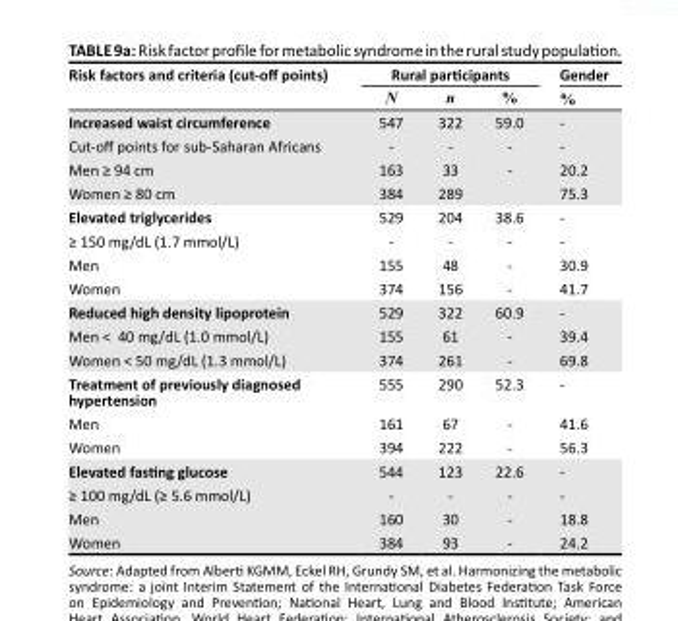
<table><thead><tr><td rowspan="2">Risk factors and criteria (cut-off points)</td><td colspan="3">Rural participants</td><td rowspan="2">Gender %</td></tr><tr><td>N</td><td>n</td><td>%</td></tr></thead><tbody><tr><td>Increased waist circumference</td><td>547</td><td>322</td><td>59.0</td><td>-</td></tr><tr><td>Cut-off points for sub-Saharan Africans</td><td>-</td><td>-</td><td>-</td><td>-</td></tr><tr><td>Men ≥ 94 cm</td><td>163</td><td>33</td><td>-</td><td>20.2</td></tr><tr><td>Women ≥ 80 cm</td><td>384</td><td>289</td><td></td><td>75.3</td></tr><tr><td>Elevated triglycerides</td><td>529</td><td>204</td><td>38.6</td><td>-</td></tr><tr><td>≥ 150 mg/dL (1.7 mmol/L)</td><td>-</td><td>-</td><td>-</td><td>-</td></tr><tr><td>Men</td><td>155</td><td>48</td><td>-</td><td>30.9</td></tr><tr><td>Women</td><td>374</td><td>156</td><td>-</td><td>41.7</td></tr><tr><td>Reduced high density lipoprotein</td><td>529</td><td>322</td><td>60.9</td><td>-</td></tr><tr><td>Men &lt; 40 mg/dL (1.0 mmol/L)</td><td>155</td><td>61</td><td>-</td><td>39.4</td></tr><tr><td>Women &lt; 50 mg/dL (1.3 mmol/L)</td><td>374</td><td>261</td><td>-</td><td>69.8</td></tr><tr><td>Treatment of previously diagnosed hypertension</td><td>555</td><td>290</td><td>52.3</td><td>-</td></tr><tr><td>Men</td><td>161</td><td>67</td><td>-</td><td>41.6</td></tr><tr><td>Women</td><td>394</td><td>222</td><td>-</td><td>56.3</td></tr><tr><td>Elevated fasting glucose</td><td>544</td><td>123</td><td>22.6</td><td>-</td></tr><tr><td>≥ 100 mg/dL (≥ 5.6 mmol/L)</td><td>-</td><td>-</td><td>-</td><td>-</td></tr><tr><td>Men</td><td>160</td><td>30</td><td>-</td><td>18.8</td></tr><tr><td>Women</td><td>384</td><td>93</td><td>-</td><td>24.2</td></tr></tbody></table>